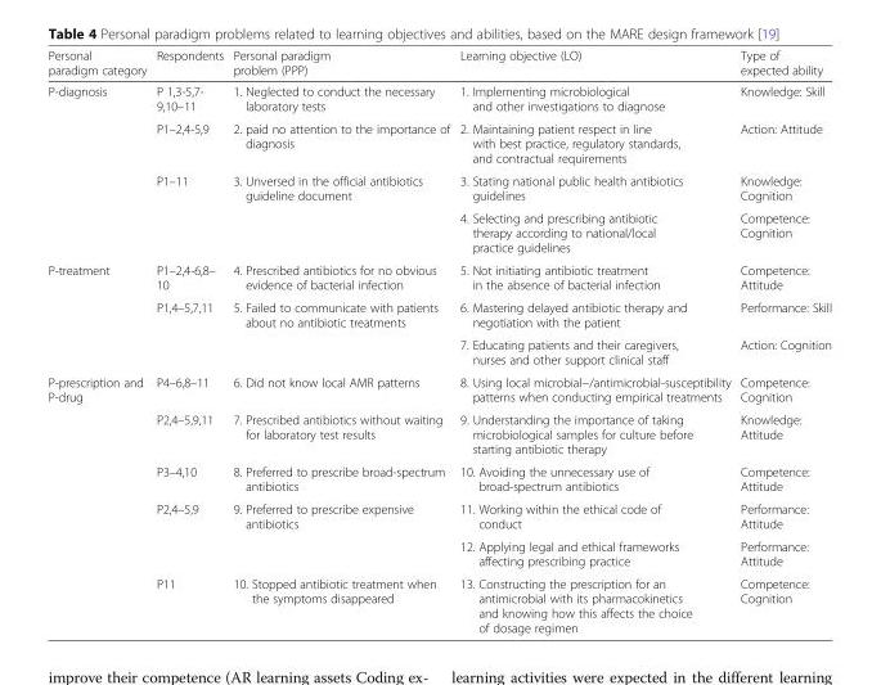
<table><thead><tr><td>Personal paradigm category</td><td>Respondents</td><td>Personal paradigm problem (PPP)</td><td>Learning objective (LO)</td><td>Type of expected ability</td></tr></thead><tbody><tr><td rowspan="4">P-diagnosis</td><td>P 1,3-5,7- 9,10–11</td><td>1. Neglected to conduct the necessary laboratory tests</td><td>1. Implementing microbiological and other investigations to diagnose</td><td>Knowledge: Skill</td></tr><tr><td>P1–2,4-5,9</td><td>2. paid no attention to the importance of diagnosis</td><td>2. Maintaining patient respect in line with best practice, regulatory standards, and contractual requirements</td><td>Action: Attitude</td></tr><tr><td rowspan="2">P1–11</td><td rowspan="2">3. Unversed in the official antibiotics guideline document</td><td>3. Stating national public health antibiotics guidelines</td><td>Knowledge: Cognition</td></tr><tr><td>4. Selecting and prescribing antibiotic therapy according to national/local practice guidelines</td><td>Competence: Cognition</td></tr><tr><td rowspan="3">P-treatment</td><td>P1–2,4-6,8– 10</td><td>4. Prescribed antibiotics for no obvious evidence of bacterial infection</td><td>5. Not initiating antibiotic treatment in the absence of bacterial infection</td><td>Competence: Attitude</td></tr><tr><td rowspan="2">P1,4–5,7,11</td><td rowspan="2">5. Failed to communicate with patients about no antibiotic treatments</td><td>6. Mastering delayed antibiotic therapy and negotiation with the patient</td><td>Performance: Skill</td></tr><tr><td>7. Educating patients and their caregivers, nurses and other support clinical staff</td><td>Action: Cognition</td></tr><tr><td rowspan="6">P-prescription and P-drug</td><td>P4–6,8–11</td><td>6. Did not know local AMR patterns</td><td>8. Using local microbial−/antimicrobial-susceptibility patterns when conducting empirical treatments</td><td>Competence: Cognition</td></tr><tr><td>P2,4–5,9,11</td><td>7. Prescribed antibiotics without waiting for laboratory test results</td><td>9. Understanding the importance of taking microbiological samples for culture before starting antibiotic therapy</td><td>Knowledge: Attitude</td></tr><tr><td>P3–4,10</td><td>8. Preferred to prescribe broad-spectrum antibiotics</td><td>10. Avoiding the unnecessary use of broad-spectrum antibiotics</td><td>Competence: Attitude</td></tr><tr><td rowspan="2">P2,4–5,9</td><td rowspan="2">9. Preferred to prescribe expensive antibiotics</td><td>11. Working within the ethical code of conduct</td><td>Performance: Attitude</td></tr><tr><td>12. Applying legal and ethical frameworks affecting prescribing practice</td><td>Performance: Attitude</td></tr><tr><td>P11</td><td>10. Stopped antibiotic treatment when the symptoms disappeared</td><td>13. Constructing the prescription for an antimicrobial with its pharmacokinetics and knowing how this affects the choice of dosage regimen</td><td>Competence: Cognition</td></tr></tbody></table>